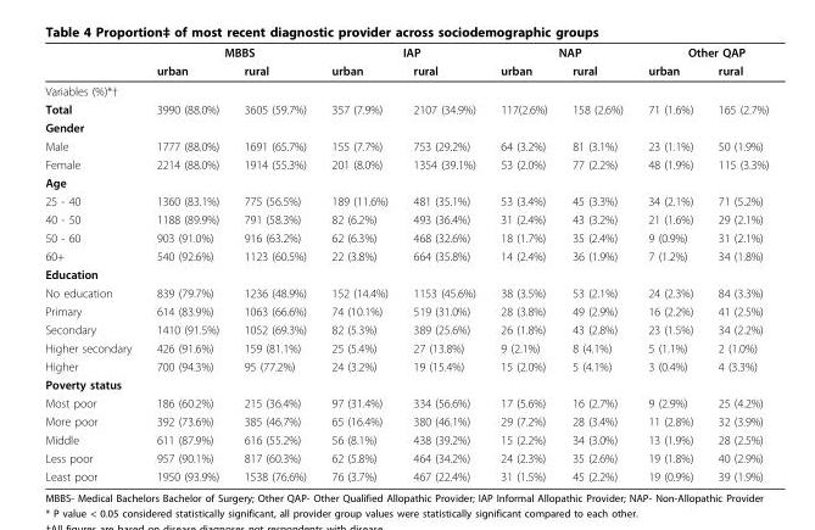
<table><thead><tr><td rowspan="2"></td><td colspan="2">MBBS</td><td colspan="2">IAP</td><td colspan="2">NAP</td><td colspan="2">Other QAP</td></tr><tr><td>urban</td><td>rural</td><td>urban</td><td>rural</td><td>urban</td><td>rural</td><td>urban</td><td>rural</td></tr></thead><tbody><tr><td colspan="9">Variables (%)*†</td></tr><tr><td>Total</td><td>3990 (88.0%)</td><td>3605 (59.7%)</td><td>357 (7.9%)</td><td>2107 (34.9%)</td><td>117(2.6%)</td><td>158 (2.6%)</td><td>71 (1.6%)</td><td>165 (2.7%)</td></tr><tr><td colspan="9">Gender</td></tr><tr><td>Male</td><td>1777 (88.0%)</td><td>1691 (65.7%)</td><td>155 (7.7%)</td><td>753 (29.2%)</td><td>64 (3.2%)</td><td>81 (3.1%)</td><td>23 (1.1%)</td><td>50 (1.9%)</td></tr><tr><td>Female</td><td>2214 (88.0%)</td><td>1914 (55.3%)</td><td>201 (8.0%)</td><td>1354 (39.1%)</td><td>53 (2.0%)</td><td>77 (2.2%)</td><td>48 (1.9%)</td><td>115 (3.3%)</td></tr><tr><td colspan="9">Age</td></tr><tr><td>25 - 40</td><td>1360 (83.1%)</td><td>775 (56.5%)</td><td>189 (11.6%)</td><td>481 (35.1%)</td><td>53 (3.4%)</td><td>45 (3.3%)</td><td>34 (2.1%)</td><td>71 (5.2%)</td></tr><tr><td>40 - 50</td><td>1188 (89.9%)</td><td>791 (58.3%)</td><td>82 (6.2%)</td><td>493 (36.4%)</td><td>31 (2.4%)</td><td>43 (3.2%)</td><td>21 (1.6%)</td><td>29 (2.1%)</td></tr><tr><td>50 - 60</td><td>903 (91.0%)</td><td>916 (63.2%)</td><td>62 (6.3%)</td><td>468 (32.6%)</td><td>18 (1.7%)</td><td>35 (2.4%)</td><td>9 (0.9%)</td><td>31 (2.1%)</td></tr><tr><td>60+</td><td>540 (92.6%)</td><td>1123 (60.5%)</td><td>22 (3.8%)</td><td>664 (35.8%)</td><td>14 (2.4%)</td><td>36 (1.9%)</td><td>7 (1.2%)</td><td>34 (1.8%)</td></tr><tr><td colspan="9">Education</td></tr><tr><td>No education</td><td>839 (79.7%)</td><td>1236 (48.9%)</td><td>152 (14.4%)</td><td>1153 (45.6%)</td><td>38 (3.5%)</td><td>53 (2.1%)</td><td>24 (2.3%)</td><td>84 (3.3%)</td></tr><tr><td>Primary</td><td>614 (83.9%)</td><td>1063 (66.6%)</td><td>74 (10.1%)</td><td>519 (31.0%)</td><td>28 (3.8%)</td><td>49 (2.9%)</td><td>16 (2.2%)</td><td>41 (2.5%)</td></tr><tr><td>Secondary</td><td>1410 (91.5%)</td><td>1052 (69.3%)</td><td>82 (5.3%)</td><td>389 (25.6%)</td><td>26 (1.8%)</td><td>43 (2.8%)</td><td>23 (1.5%)</td><td>34 (2.2%)</td></tr><tr><td>Higher secondary</td><td>426 (91.6%)</td><td>159 (81.1%)</td><td>25 (5.4%)</td><td>27 (13.8%)</td><td>9 (2.1%)</td><td>8 (4.1%)</td><td>5 (1.1%)</td><td>2 (1.0%)</td></tr><tr><td>Higher</td><td>700 (94.3%)</td><td>95 (77.2%)</td><td>24 (3.2%)</td><td>19 (15.4%)</td><td>15 (2.0%)</td><td>5 (4.1%)</td><td>3 (0.4%)</td><td>4 (3.3%)</td></tr><tr><td colspan="9">Poverty status</td></tr><tr><td>Most poor</td><td>186 (60.2%)</td><td>215 (36.4%)</td><td>97 (31.4%)</td><td>334 (56.6%)</td><td>17 (5.6%)</td><td>16 (2.7%)</td><td>9 (2.9%)</td><td>25 (4.2%)</td></tr><tr><td>More poor</td><td>392 (73.6%)</td><td>385 (46.7%)</td><td>65 (16.4%)</td><td>380 (46.1%)</td><td>29 (7.2%)</td><td>28 (3.4%)</td><td>11 (2.8%)</td><td>32 (3.9%)</td></tr><tr><td>Middle</td><td>611 (87.9%)</td><td>616 (55.2%)</td><td>56 (8.1%)</td><td>438 (39.2%)</td><td>15 (2.2%)</td><td>34 (3.0%)</td><td>13 (1.9%)</td><td>28 (2.5%)</td></tr><tr><td>Less poor</td><td>957 (90.1%)</td><td>817 (60.3%)</td><td>62 (5.8%)</td><td>464 (34.2%)</td><td>24 (2.3%)</td><td>35 (2.6%)</td><td>19 (1.8%)</td><td>40 (2.9%)</td></tr><tr><td>Least poor</td><td>1950 (93.9%)</td><td>1538 (76.6%)</td><td>76 (3.7%)</td><td>467 (22.4%)</td><td>31 (1.5%)</td><td>45 (2.2%)</td><td>19 (0.9%)</td><td>39 (1.9%)</td></tr></tbody></table>